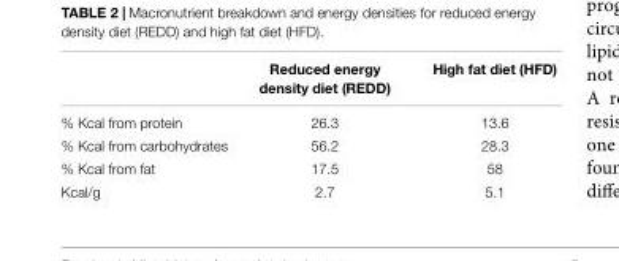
<table><thead><tr><td></td><td>Reduced energy density diet (REDD)</td><td>High fat diet (HFD)</td></tr></thead><tbody><tr><td>% Kcal from protein</td><td>26.3</td><td>13.6</td></tr><tr><td>% Kcal from carbohydrates</td><td>56.2</td><td>28.3</td></tr><tr><td>% Kcal from fat</td><td>17.5</td><td>58</td></tr><tr><td>Kcal/g</td><td>2.7</td><td>5.1</td></tr></tbody></table>